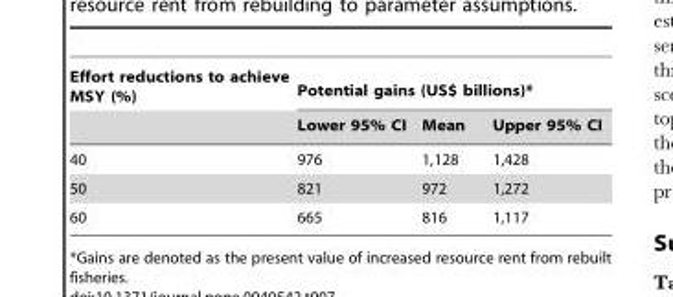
<table><thead><tr><td rowspan="2">Effort reductions to achieve MSY (%)</td><td colspan="3">Potential gains (US$ billions)*</td></tr><tr><td>Lower 95% CI</td><td>Mean</td><td>Upper 95% CI</td></tr></thead><tbody><tr><td>40</td><td>976</td><td>1,128</td><td>1,428</td></tr><tr><td>50</td><td>821</td><td>972</td><td>1,272</td></tr><tr><td>60</td><td>665</td><td>816</td><td>1,117</td></tr></tbody></table>